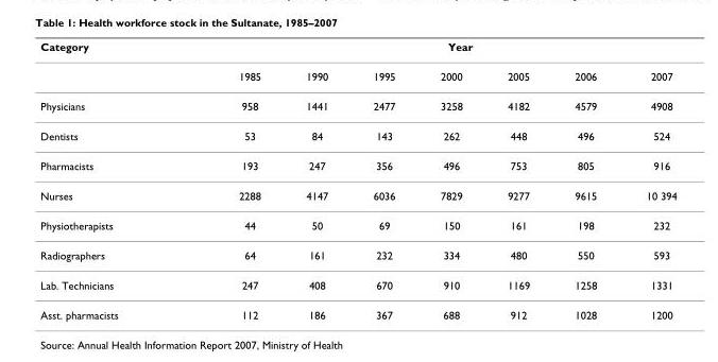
<table><thead><tr><td rowspan="2">Category</td><td colspan="7">Year</td></tr><tr><td>1985</td><td>1990</td><td>1995</td><td>2000</td><td>2005</td><td>2006</td><td>2007</td></tr></thead><tbody><tr><td>Physicians</td><td>958</td><td>1441</td><td>2477</td><td>3258</td><td>4182</td><td>4579</td><td>4908</td></tr><tr><td>Dentists</td><td>53</td><td>84</td><td>143</td><td>262</td><td>448</td><td>496</td><td>524</td></tr><tr><td>Pharmacists</td><td>193</td><td>247</td><td>356</td><td>496</td><td>753</td><td>805</td><td>916</td></tr><tr><td>Nurses</td><td>2288</td><td>4147</td><td>6036</td><td>7829</td><td>9277</td><td>9615</td><td>10 394</td></tr><tr><td>Physiotherapists</td><td>44</td><td>50</td><td>69</td><td>150</td><td>161</td><td>198</td><td>232</td></tr><tr><td>Radiographers</td><td>64</td><td>161</td><td>232</td><td>334</td><td>480</td><td>550</td><td>593</td></tr><tr><td>Lab. Technicians</td><td>247</td><td>408</td><td>670</td><td>910</td><td>1169</td><td>1258</td><td>1331</td></tr><tr><td>Asst. pharmacists</td><td>112</td><td>186</td><td>367</td><td>688</td><td>912</td><td>1028</td><td>1200</td></tr></tbody></table>